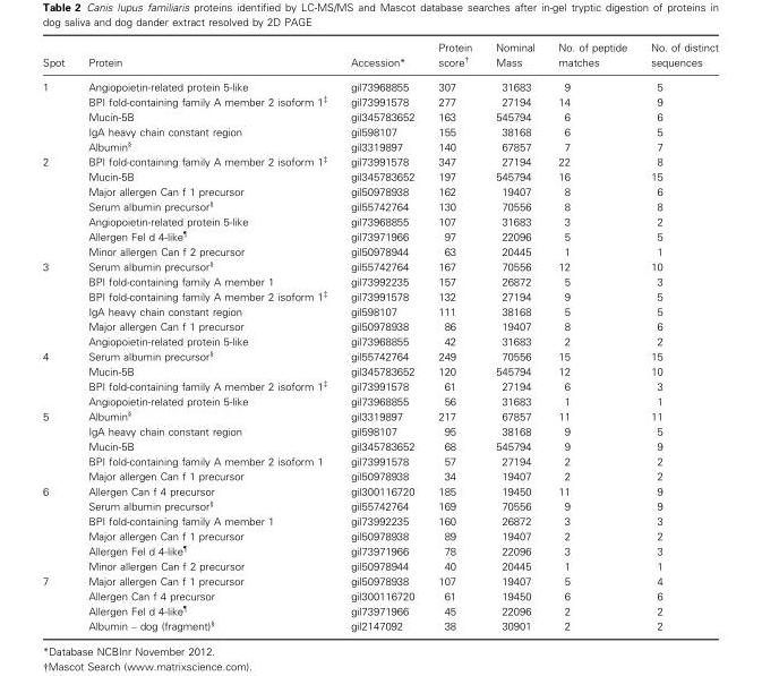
<table><thead><tr><td>Spot</td><td>Protein</td><td>Accession*</td><td>Protein score†</td><td>Nominal Mass</td><td>No. of peptide matches</td><td>No. of distinct sequences</td></tr></thead><tbody><tr><td rowspan="5">1</td><td>Angiopoietin-related protein 5-like</td><td>gi|73968855</td><td>307</td><td>31683</td><td>9</td><td>5</td></tr><tr><td>BPI fold-containing family A member 2 isoform 1‡</td><td>gi|73991578</td><td>277</td><td>27194</td><td>14</td><td>9</td></tr><tr><td>Mucin-5B</td><td>gi|345783652</td><td>163</td><td>545794</td><td>6</td><td>6</td></tr><tr><td>IgA heavy chain constant region</td><td>gi|598107</td><td>155</td><td>38168</td><td>6</td><td>5</td></tr><tr><td>Albumin§</td><td>gi|3319897</td><td>140</td><td>67857</td><td>7</td><td>7</td></tr><tr><td rowspan="7">2</td><td>BPI fold-containing family A member 2 isoform 1‡</td><td>gi|73991578</td><td>347</td><td>27194</td><td>22</td><td>8</td></tr><tr><td>Mucin-5B</td><td>gi|345783652</td><td>197</td><td>545794</td><td>16</td><td>15</td></tr><tr><td>Major allergen Can f 1 precursor</td><td>gi|50978938</td><td>162</td><td>19407</td><td>8</td><td>6</td></tr><tr><td>Serum albumin precursor§</td><td>gi|55742764</td><td>130</td><td>70556</td><td>8</td><td>8</td></tr><tr><td>Angiopoietin-related protein 5-like</td><td>gi|73968855</td><td>107</td><td>31683</td><td>3</td><td>2</td></tr><tr><td>Allergen Fel d 4-like¶</td><td>gi|73971966</td><td>97</td><td>22096</td><td>5</td><td>5</td></tr><tr><td>Minor allergen Can f 2 precursor</td><td>gi|50978944</td><td>63</td><td>20445</td><td>1</td><td>1</td></tr><tr><td rowspan="6">3</td><td>Serum albumin precursor§</td><td>gi|55742764</td><td>167</td><td>70556</td><td>12</td><td>10</td></tr><tr><td>BPI fold-containing family A member 1</td><td>gi|73992235</td><td>157</td><td>26872</td><td>5</td><td>3</td></tr><tr><td>BPI fold-containing family A member 2 isoform 1‡</td><td>gi|73991578</td><td>132</td><td>27194</td><td>9</td><td>5</td></tr><tr><td>IgA heavy chain constant region</td><td>gi|598107</td><td>111</td><td>38168</td><td>5</td><td>5</td></tr><tr><td>Major allergen Can f 1 precursor</td><td>gi|50978938</td><td>86</td><td>19407</td><td>8</td><td>6</td></tr><tr><td>Angiopoietin-related protein 5-like</td><td>gi|73968855</td><td>42</td><td>31683</td><td>2</td><td>2</td></tr><tr><td rowspan="4">4</td><td>Serum albumin precursor§</td><td>gi|55742764</td><td>249</td><td>70556</td><td>15</td><td>15</td></tr><tr><td>Mucin-5B</td><td>gi|345783652</td><td>120</td><td>545794</td><td>12</td><td>10</td></tr><tr><td>BPI fold-containing family A member 2 isoform 1‡</td><td>gi|73991578</td><td>61</td><td>27194</td><td>6</td><td>3</td></tr><tr><td>Angiopoietin-related protein 5-like</td><td>gi|73968855</td><td>56</td><td>31683</td><td>1</td><td>1</td></tr><tr><td rowspan="5">5</td><td>Albumin§</td><td>gi|3319897</td><td>217</td><td>67857</td><td>11</td><td>11</td></tr><tr><td>IgA heavy chain constant region</td><td>gi|598107</td><td>95</td><td>38168</td><td>9</td><td>5</td></tr><tr><td>Mucin-5B</td><td>gi|345783652</td><td>68</td><td>545794</td><td>9</td><td>9</td></tr><tr><td>BPI fold-containing family A member 2 isoform 1</td><td>gi|73991578</td><td>57</td><td>27194</td><td>2</td><td>2</td></tr><tr><td>Major allergen Can f 1 precursor</td><td>gi|50978938</td><td>34</td><td>19407</td><td>2</td><td>2</td></tr><tr><td rowspan="6">6</td><td>Allergen Can f 4 precursor</td><td>gi|300116720</td><td>185</td><td>19450</td><td>11</td><td>9</td></tr><tr><td>Serum albumin precursor§</td><td>gi|55742764</td><td>169</td><td>70556</td><td>9</td><td>9</td></tr><tr><td>BPI fold-containing family A member 1</td><td>gi|73992235</td><td>160</td><td>26872</td><td>3</td><td>3</td></tr><tr><td>Major allergen Can f 1 precursor</td><td>gi|50978938</td><td>89</td><td>19407</td><td>2</td><td>2</td></tr><tr><td>Allergen Fel d 4-like¶</td><td>gi|73971966</td><td>78</td><td>22096</td><td>3</td><td>3</td></tr><tr><td>Minor allergen Can f 2 precursor</td><td>gi|50978944</td><td>40</td><td>20445</td><td>1</td><td>1</td></tr><tr><td rowspan="4">7</td><td>Major allergen Can f 1 precursor</td><td>gi|50978938</td><td>107</td><td>19407</td><td>5</td><td>4</td></tr><tr><td>Allergen Can f 4 precursor</td><td>gi|300116720</td><td>61</td><td>19450</td><td>6</td><td>6</td></tr><tr><td>Allergen Fel d 4-like¶</td><td>gi|73971966</td><td>45</td><td>22096</td><td>2</td><td>2</td></tr><tr><td>Albumin – dog (fragment)§</td><td>gi|2147092</td><td>38</td><td>30901</td><td>2</td><td>2</td></tr></tbody></table>